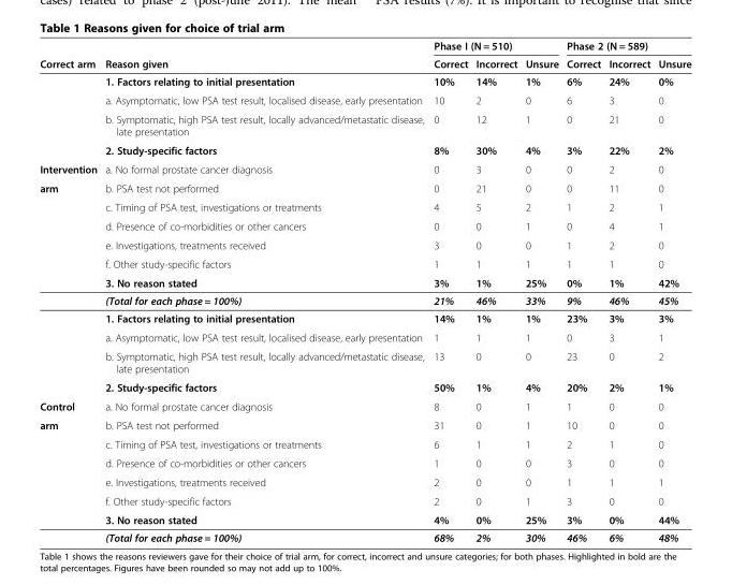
<table><thead><tr><td rowspan="2">Correct arm</td><td rowspan="2">Reason given</td><td colspan="3">Phase I (N = 510)</td><td colspan="3">Phase 2 (N = 589)</td></tr><tr><td>Correct</td><td>Incorrect</td><td>Unsure</td><td>Correct</td><td>Incorrect</td><td>Unsure</td></tr></thead><tbody><tr><td></td><td>1. Factors relating to initial presentation</td><td>10%</td><td>14%</td><td>1%</td><td>6%</td><td>24%</td><td>0%</td></tr><tr><td></td><td>a. Asymptomatic, low PSA test result, localised disease, early presentation</td><td>10</td><td>2</td><td>0</td><td>6</td><td>3</td><td>0</td></tr><tr><td></td><td>b. Symptomatic, high PSA test result, locally advanced/metastatic disease, late presentation</td><td>0</td><td>12</td><td>1</td><td>0</td><td>21</td><td>0</td></tr><tr><td></td><td>2. Study-specific factors</td><td>8%</td><td>30%</td><td>4%</td><td>3%</td><td>22%</td><td>2%</td></tr><tr><td>Intervention</td><td>a. No formal prostate cancer diagnosis</td><td>0</td><td>3</td><td>0</td><td>0</td><td>2</td><td>0</td></tr><tr><td rowspan="11">arm</td><td>b. PSA test not performed</td><td>0</td><td>21</td><td>0</td><td>0</td><td>11</td><td>0</td></tr><tr><td>c. Timing of PSA test, investigations or treatments</td><td>4</td><td>5</td><td>2</td><td>1</td><td>2</td><td>1</td></tr><tr><td>d. Presence of co-morbidities or other cancers</td><td>0</td><td>0</td><td>1</td><td>0</td><td>4</td><td>1</td></tr><tr><td>e. Investigations, treatments received</td><td>3</td><td>0</td><td>0</td><td>1</td><td>2</td><td>0</td></tr><tr><td>f. Other study-specific factors</td><td>1</td><td>1</td><td>1</td><td>1</td><td>1</td><td>0</td></tr><tr><td>3. No reason stated</td><td>3%</td><td>1%</td><td>25%</td><td>0%</td><td>1%</td><td>42%</td></tr><tr><td>(Total for each phase = 100%)</td><td>21%</td><td>46%</td><td>33%</td><td>9%</td><td>46%</td><td>45%</td></tr><tr><td>1. Factors relating to initial presentation</td><td>14%</td><td>1%</td><td>1%</td><td>23%</td><td>3%</td><td>3%</td></tr><tr><td>a. Asymptomatic, low PSA test result, localised disease, early presentation</td><td>1</td><td>1</td><td>1</td><td>0</td><td>3</td><td>1</td></tr><tr><td>b. Symptomatic, high PSA test result, locally advanced/metastatic disease, late presentation</td><td>13</td><td>0</td><td>0</td><td>23</td><td>0</td><td>2</td></tr><tr><td>2. Study-specific factors</td><td>50%</td><td>1%</td><td>4%</td><td>20%</td><td>2%</td><td>1%</td></tr><tr><td>Control</td><td>a. No formal prostate cancer diagnosis</td><td>8</td><td>0</td><td>1</td><td>1</td><td>0</td><td>0</td></tr><tr><td rowspan="7">arm</td><td>b. PSA test not performed</td><td>31</td><td>0</td><td>1</td><td>10</td><td>0</td><td>0</td></tr><tr><td>c. Timing of PSA test, investigations or treatments</td><td>6</td><td>1</td><td>1</td><td>2</td><td>1</td><td>0</td></tr><tr><td>d. Presence of co-morbidities or other cancers</td><td>1</td><td>0</td><td>0</td><td>3</td><td>0</td><td>0</td></tr><tr><td>e. Investigations, treatments received</td><td>2</td><td>0</td><td>0</td><td>1</td><td>1</td><td>1</td></tr><tr><td>f. Other study-specific factors</td><td>2</td><td>0</td><td>1</td><td>3</td><td>0</td><td>0</td></tr><tr><td>3. No reason stated</td><td>4%</td><td>0%</td><td>25%</td><td>3%</td><td>0%</td><td>44%</td></tr><tr><td>(Total for each phase = 100%)</td><td>68%</td><td>2%</td><td>30%</td><td>46%</td><td>6%</td><td>48%</td></tr></tbody></table>